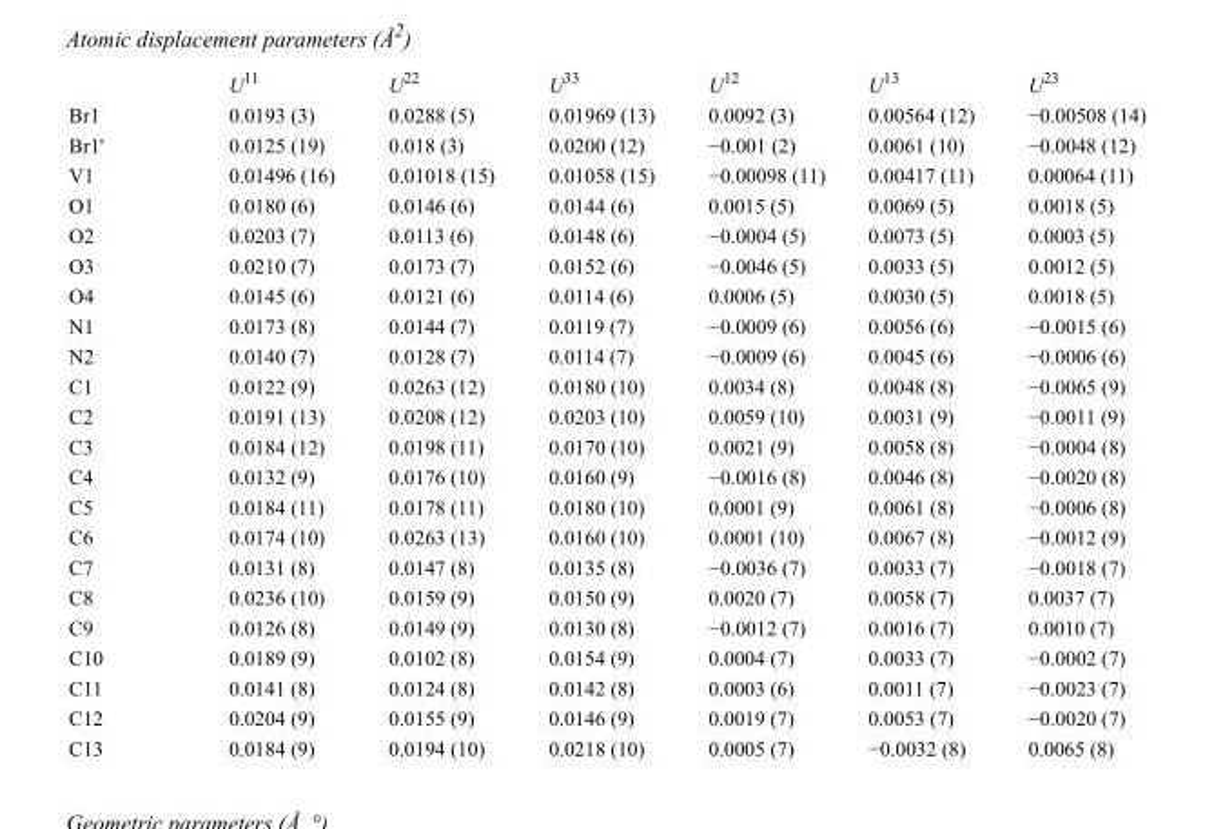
<table><thead><tr><td></td><td>U<sup>11</sup></td><td>U<sup>22</sup></td><td>U<sup>33</sup></td><td>U<sup>12</sup></td><td>U<sup>13</sup></td><td>U<sup>23</sup></td></tr></thead><tbody><tr><td>Br1</td><td>0.0193 (3)</td><td>0.0288 (5)</td><td>0.01969 (13)</td><td>0.0092 (3)</td><td>0.00564 (12)</td><td>−0.00508 (14)</td></tr><tr><td>Br1&#x27;</td><td>0.0125 (19)</td><td>0.018 (3)</td><td>0.0200 (12)</td><td>−0.001 (2)</td><td>0.0061 (10)</td><td>−0.0048 (12)</td></tr><tr><td>V1</td><td>0.01496 (16)</td><td>0.01018 (15)</td><td>0.01058 (15)</td><td>−0.00098 (11)</td><td>0.00417 (11)</td><td>0.00064 (11)</td></tr><tr><td>O1</td><td>0.0180 (6)</td><td>0.0146 (6)</td><td>0.0144 (6)</td><td>0.0015 (5)</td><td>0.0069 (5)</td><td>0.0018 (5)</td></tr><tr><td>O2</td><td>0.0203 (7)</td><td>0.0113 (6)</td><td>0.0148 (6)</td><td>−0.0004 (5)</td><td>0.0073 (5)</td><td>0.0003 (5)</td></tr><tr><td>O3</td><td>0.0210 (7)</td><td>0.0173 (7)</td><td>0.0152 (6)</td><td>−0.0046 (5)</td><td>0.0033 (5)</td><td>0.0012 (5)</td></tr><tr><td>O4</td><td>0.0145 (6)</td><td>0.0121 (6)</td><td>0.0114 (6)</td><td>0.0006 (5)</td><td>0.0030 (5)</td><td>0.0018 (5)</td></tr><tr><td>N1</td><td>0.0173 (8)</td><td>0.0144 (7)</td><td>0.0119 (7)</td><td>−0.0009 (6)</td><td>0.0056 (6)</td><td>−0.0015 (6)</td></tr><tr><td>N2</td><td>0.0140 (7)</td><td>0.0128 (7)</td><td>0.0114 (7)</td><td>−0.0009 (6)</td><td>0.0045 (6)</td><td>−0.0006 (6)</td></tr><tr><td>C1</td><td>0.0122 (9)</td><td>0.0263 (12)</td><td>0.0180 (10)</td><td>0.0034 (8)</td><td>0.0048 (8)</td><td>−0.0065 (9)</td></tr><tr><td>C2</td><td>0.0191 (13)</td><td>0.0208 (12)</td><td>0.0203 (10)</td><td>0.0059 (10)</td><td>0.0031 (9)</td><td>−0.0011 (9)</td></tr><tr><td>C3</td><td>0.0184 (12)</td><td>0.0198 (11)</td><td>0.0170 (10)</td><td>0.0021 (9)</td><td>0.0058 (8)</td><td>−0.0004 (8)</td></tr><tr><td>C4</td><td>0.0132 (9)</td><td>0.0176 (10)</td><td>0.0160 (9)</td><td>−0.0016 (8)</td><td>0.0046 (8)</td><td>−0.0020 (8)</td></tr><tr><td>C5</td><td>0.0184 (11)</td><td>0.0178 (11)</td><td>0.0180 (10)</td><td>0.0001 (9)</td><td>0.0061 (8)</td><td>−0.0006 (8)</td></tr><tr><td>C6</td><td>0.0174 (10)</td><td>0.0263 (13)</td><td>0.0160 (10)</td><td>0.0001 (10)</td><td>0.0067 (8)</td><td>−0.0012 (9)</td></tr><tr><td>C7</td><td>0.0131 (8)</td><td>0.0147 (8)</td><td>0.0135 (8)</td><td>−0.0036 (7)</td><td>0.0033 (7)</td><td>−0.0018 (7)</td></tr><tr><td>C8</td><td>0.0236 (10)</td><td>0.0159 (9)</td><td>0.0150 (9)</td><td>0.0020 (7)</td><td>0.0058 (7)</td><td>0.0037 (7)</td></tr><tr><td>C9</td><td>0.0126 (8)</td><td>0.0149 (9)</td><td>0.0130 (8)</td><td>−0.0012 (7)</td><td>0.0016 (7)</td><td>0.0010 (7)</td></tr><tr><td>C10</td><td>0.0189 (9)</td><td>0.0102 (8)</td><td>0.0154 (9)</td><td>0.0004 (7)</td><td>0.0033 (7)</td><td>−0.0002 (7)</td></tr><tr><td>C11</td><td>0.0141 (8)</td><td>0.0124 (8)</td><td>0.0142 (8)</td><td>0.0003 (6)</td><td>0.0011 (7)</td><td>−0.0023 (7)</td></tr><tr><td>C12</td><td>0.0204 (9)</td><td>0.0155 (9)</td><td>0.0146 (9)</td><td>0.0019 (7)</td><td>0.0053 (7)</td><td>−0.0020 (7)</td></tr><tr><td>C13</td><td>0.0184 (9)</td><td>0.0194 (10)</td><td>0.0218 (10)</td><td>0.0005 (7)</td><td>−0.0032 (8)</td><td>0.0065 (8)</td></tr></tbody></table>